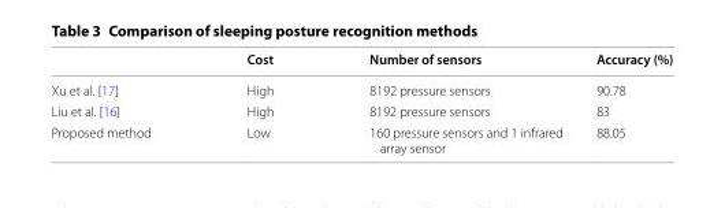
<table><thead><tr><td></td><td>Cost</td><td>Number of sensors</td><td>Accuracy (%)</td></tr></thead><tbody><tr><td>Xu et al. [17]</td><td>High</td><td>8192 pressure sensors</td><td>90.78</td></tr><tr><td>Liu et al. [16]</td><td>High</td><td>8192 pressure sensors</td><td>83</td></tr><tr><td>Proposed method</td><td>Low</td><td>160 pressure sensors and 1 infrared array sensor</td><td>88.05</td></tr></tbody></table>